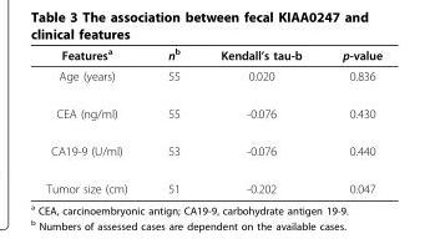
<table><thead><tr><td>Features<sup>a</sup></td><td>n<sup>b</sup></td><td>Kendall’s tau-b</td><td>p-value</td></tr></thead><tbody><tr><td>Age (years)</td><td>55</td><td>0.020</td><td>0.836</td></tr><tr><td>CEA (ng/ml)</td><td>55</td><td>-0.076</td><td>0.430</td></tr><tr><td>CA19-9 (U/ml)</td><td>53</td><td>-0.076</td><td>0.440</td></tr><tr><td>Tumor size (cm)</td><td>51</td><td>-0.202</td><td>0.047</td></tr></tbody></table>